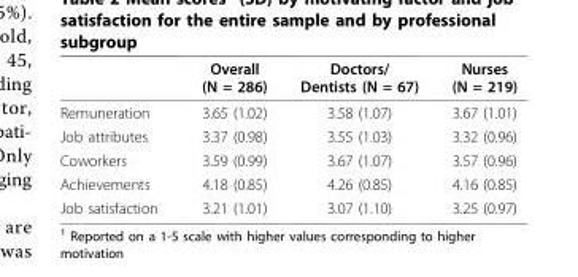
<table><thead><tr><td></td><td>Overall (N = 286)</td><td>Doctors/ Dentists (N = 67)</td><td>Nurses (N = 219)</td></tr></thead><tbody><tr><td>Remuneration</td><td>3.65 (1.02)</td><td>3.58 (1.07)</td><td>3.67 (1.01)</td></tr><tr><td>Job attributes</td><td>3.37 (0.98)</td><td>3.55 (1.03)</td><td>3.32 (0.96)</td></tr><tr><td>Coworkers</td><td>3.59 (0.99)</td><td>3.67 (1.07)</td><td>3.57 (0.96)</td></tr><tr><td>Achievements</td><td>4.18 (0.85)</td><td>4.26 (0.85)</td><td>4.16 (0.85)</td></tr><tr><td>Job satisfaction</td><td>3.21 (1.01)</td><td>3.07 (1.10)</td><td>3.25 (0.97)</td></tr></tbody></table>